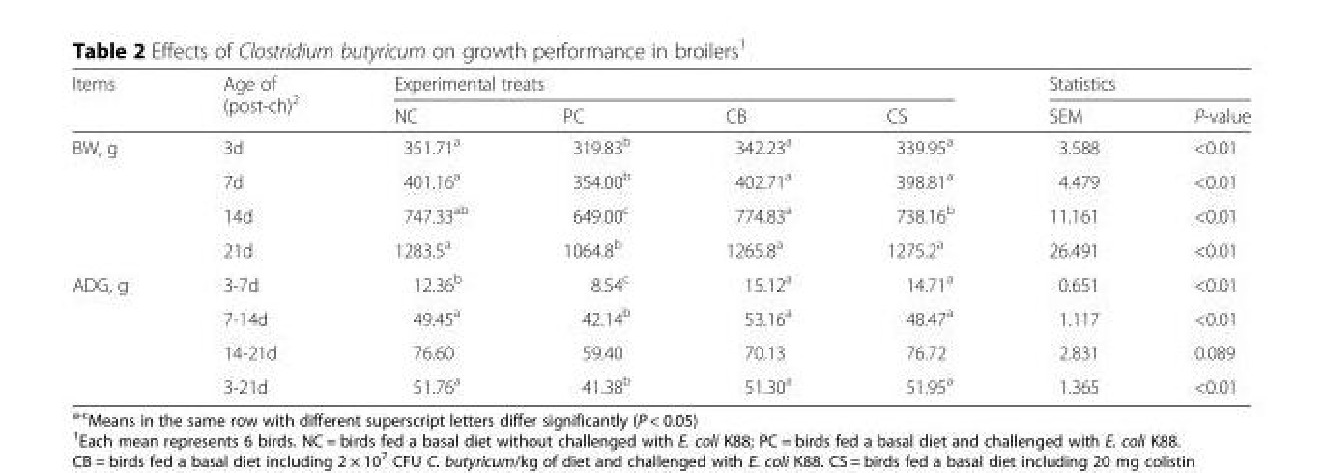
<table><thead><tr><td rowspan="2">Items</td><td rowspan="2">Age of (post-ch)<sup>2</sup></td><td colspan="4">Experimental treats</td><td colspan="2">Statistics</td></tr><tr><td>NC</td><td>PC</td><td>CB</td><td>CS</td><td>SEM</td><td>P-value</td></tr></thead><tbody><tr><td rowspan="4">BW, g</td><td>3d</td><td>351.71<sup>a</sup></td><td>319.83<sup>b</sup></td><td>342.23<sup>a</sup></td><td>339.95<sup>a</sup></td><td>3.588</td><td>&lt;0.01</td></tr><tr><td>7d</td><td>401.16<sup>a</sup></td><td>354.00<sup>b</sup></td><td>402.71<sup>a</sup></td><td>398.81<sup>a</sup></td><td>4.479</td><td>&lt;0.01</td></tr><tr><td>14d</td><td>747.33<sup>ab</sup></td><td>649.00<sup>c</sup></td><td>774.83<sup>a</sup></td><td>738.16<sup>b</sup></td><td>11.161</td><td>&lt;0.01</td></tr><tr><td>21d</td><td>1283.5<sup>a</sup></td><td>1064.8<sup>b</sup></td><td>1265.8<sup>a</sup></td><td>1275.2<sup>a</sup></td><td>26.491</td><td>&lt;0.01</td></tr><tr><td rowspan="4">ADG, g</td><td>3-7d</td><td>12.36<sup>b</sup></td><td>8.54<sup>c</sup></td><td>15.12<sup>a</sup></td><td>14.71<sup>a</sup></td><td>0.651</td><td>&lt;0.01</td></tr><tr><td>7-14d</td><td>49.45<sup>a</sup></td><td>42.14<sup>b</sup></td><td>53.16<sup>a</sup></td><td>48.47<sup>a</sup></td><td>1.117</td><td>&lt;0.01</td></tr><tr><td>14-21d</td><td>76.60</td><td>59.40</td><td>70.13</td><td>76.72</td><td>2.831</td><td>0.089</td></tr><tr><td>3-21d</td><td>51.76<sup>a</sup></td><td>41.38<sup>b</sup></td><td>51.30<sup>a</sup></td><td>51.95<sup>a</sup></td><td>1.365</td><td>&lt;0.01</td></tr></tbody></table>